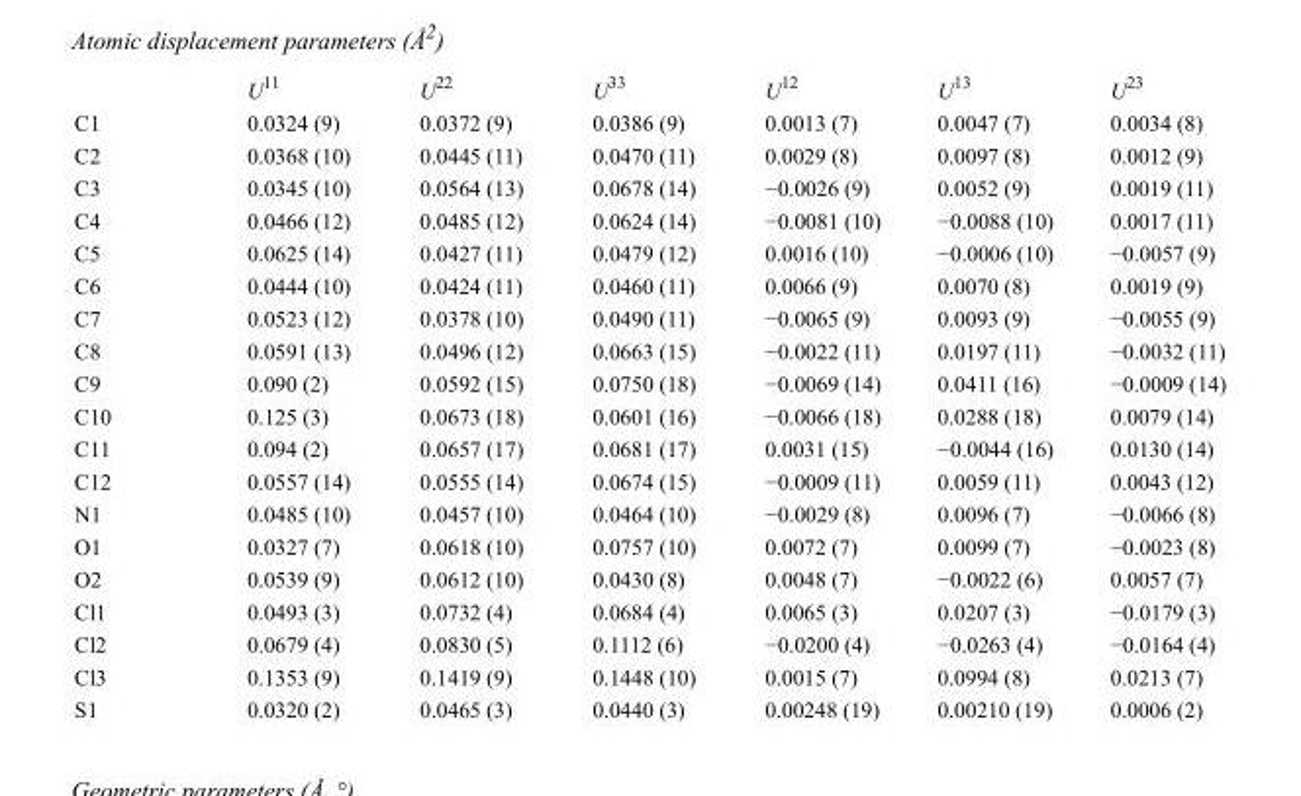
<table><thead><tr><td></td><td>U<sup>11</sup></td><td>U<sup>22</sup></td><td>U<sup>33</sup></td><td>U<sup>12</sup></td><td>U<sup>13</sup></td><td>U<sup>23</sup></td></tr></thead><tbody><tr><td>C1</td><td>0.0324 (9)</td><td>0.0372 (9)</td><td>0.0386 (9)</td><td>0.0013 (7)</td><td>0.0047 (7)</td><td>0.0034 (8)</td></tr><tr><td>C2</td><td>0.0368 (10)</td><td>0.0445 (11)</td><td>0.0470 (11)</td><td>0.0029 (8)</td><td>0.0097 (8)</td><td>0.0012 (9)</td></tr><tr><td>C3</td><td>0.0345 (10)</td><td>0.0564 (13)</td><td>0.0678 (14)</td><td>−0.0026 (9)</td><td>0.0052 (9)</td><td>0.0019 (11)</td></tr><tr><td>C4</td><td>0.0466 (12)</td><td>0.0485 (12)</td><td>0.0624 (14)</td><td>−0.0081 (10)</td><td>−0.0088 (10)</td><td>0.0017 (11)</td></tr><tr><td>C5</td><td>0.0625 (14)</td><td>0.0427 (11)</td><td>0.0479 (12)</td><td>0.0016 (10)</td><td>−0.0006 (10)</td><td>−0.0057 (9)</td></tr><tr><td>C6</td><td>0.0444 (10)</td><td>0.0424 (11)</td><td>0.0460 (11)</td><td>0.0066 (9)</td><td>0.0070 (8)</td><td>0.0019 (9)</td></tr><tr><td>C7</td><td>0.0523 (12)</td><td>0.0378 (10)</td><td>0.0490 (11)</td><td>−0.0065 (9)</td><td>0.0093 (9)</td><td>−0.0055 (9)</td></tr><tr><td>C8</td><td>0.0591 (13)</td><td>0.0496 (12)</td><td>0.0663 (15)</td><td>−0.0022 (11)</td><td>0.0197 (11)</td><td>−0.0032 (11)</td></tr><tr><td>C9</td><td>0.090 (2)</td><td>0.0592 (15)</td><td>0.0750 (18)</td><td>−0.0069 (14)</td><td>0.0411 (16)</td><td>−0.0009 (14)</td></tr><tr><td>C10</td><td>0.125 (3)</td><td>0.0673 (18)</td><td>0.0601 (16)</td><td>−0.0066 (18)</td><td>0.0288 (18)</td><td>0.0079 (14)</td></tr><tr><td>C11</td><td>0.094 (2)</td><td>0.0657 (17)</td><td>0.0681 (17)</td><td>0.0031 (15)</td><td>−0.0044 (16)</td><td>0.0130 (14)</td></tr><tr><td>C12</td><td>0.0557 (14)</td><td>0.0555 (14)</td><td>0.0674 (15)</td><td>−0.0009 (11)</td><td>0.0059 (11)</td><td>0.0043 (12)</td></tr><tr><td>N1</td><td>0.0485 (10)</td><td>0.0457 (10)</td><td>0.0464 (10)</td><td>−0.0029 (8)</td><td>0.0096 (7)</td><td>−0.0066 (8)</td></tr><tr><td>O1</td><td>0.0327 (7)</td><td>0.0618 (10)</td><td>0.0757 (10)</td><td>0.0072 (7)</td><td>0.0099 (7)</td><td>−0.0023 (8)</td></tr><tr><td>O2</td><td>0.0539 (9)</td><td>0.0612 (10)</td><td>0.0430 (8)</td><td>0.0048 (7)</td><td>−0.0022 (6)</td><td>0.0057 (7)</td></tr><tr><td>Cl1</td><td>0.0493 (3)</td><td>0.0732 (4)</td><td>0.0684 (4)</td><td>0.0065 (3)</td><td>0.0207 (3)</td><td>−0.0179 (3)</td></tr><tr><td>Cl2</td><td>0.0679 (4)</td><td>0.0830 (5)</td><td>0.1112 (6)</td><td>−0.0200 (4)</td><td>−0.0263 (4)</td><td>−0.0164 (4)</td></tr><tr><td>Cl3</td><td>0.1353 (9)</td><td>0.1419 (9)</td><td>0.1448 (10)</td><td>0.0015 (7)</td><td>0.0994 (8)</td><td>0.0213 (7)</td></tr><tr><td>S1</td><td>0.0320 (2)</td><td>0.0465 (3)</td><td>0.0440 (3)</td><td>0.00248 (19)</td><td>0.00210 (19)</td><td>0.0006 (2)</td></tr></tbody></table>